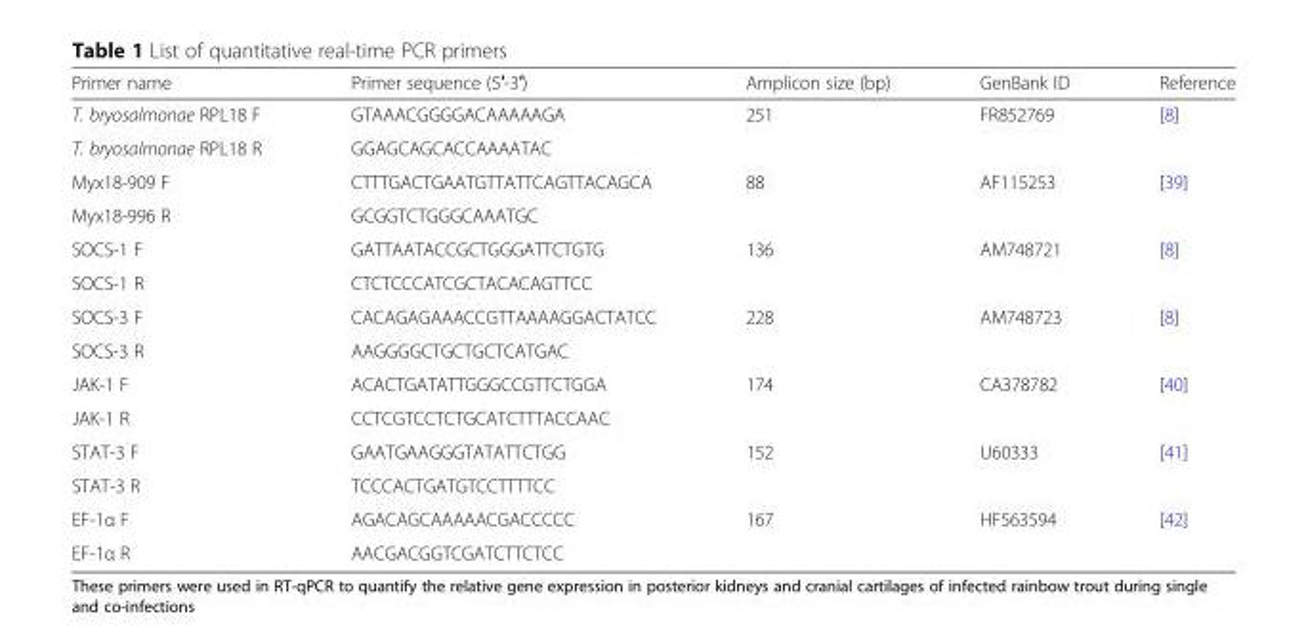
<table><thead><tr><td>Primer name</td><td>Primer sequence (5′-3′)</td><td>Amplicon size (bp)</td><td>GenBank ID</td><td>Reference</td></tr></thead><tbody><tr><td>T. bryosalmonae RPL18 F</td><td>GTAAACGGGGACAAAAAGA</td><td rowspan="2">251</td><td rowspan="2">FR852769</td><td rowspan="2">[8]</td></tr><tr><td>T. bryosalmonae RPL18 R</td><td>GGAGCAGCACCAAAATAC</td></tr><tr><td>Myx18-909 F</td><td>CTTTGACTGAATGTTATTCAGTTACAGCA</td><td rowspan="2">88</td><td rowspan="2">AF115253</td><td rowspan="2">[39]</td></tr><tr><td>Myx18-996 R</td><td>GCGGTCTGGGCAAATGC</td></tr><tr><td>SOCS-1 F</td><td>GATTAATACCGCTGGGATTCTGTG</td><td rowspan="2">136</td><td rowspan="2">AM748721</td><td rowspan="2">[8]</td></tr><tr><td>SOCS-1 R</td><td>CTCTCCCATCGCTACACAGTTCC</td></tr><tr><td>SOCS-3 F</td><td>CACAGAGAAACCGTTAAAAGGACTATCC</td><td rowspan="2">228</td><td rowspan="2">AM748723</td><td rowspan="2">[8]</td></tr><tr><td>SOCS-3 R</td><td>AAGGGGCTGCTGCTCATGAC</td></tr><tr><td>JAK-1 F</td><td>ACACTGATATTGGGCCGTTCTGGA</td><td rowspan="2">174</td><td rowspan="2">CA378782</td><td rowspan="2">[40]</td></tr><tr><td>JAK-1 R</td><td>CCTCGTCCTCTGCATCTTTACCAAC</td></tr><tr><td>STAT-3 F</td><td>GAATGAAGGGTATATTCTGG</td><td rowspan="2">152</td><td rowspan="2">U60333</td><td rowspan="2">[41]</td></tr><tr><td>STAT-3 R</td><td>TCCCACTGATGTCCTTTTCC</td></tr><tr><td>EF-1α F</td><td>AGACAGCAAAAACGACCCCC</td><td rowspan="2">167</td><td rowspan="2">HF563594</td><td rowspan="2">[42]</td></tr><tr><td>EF-1α R</td><td>AACGACGGTCGATCTTCTCC</td></tr></tbody></table>